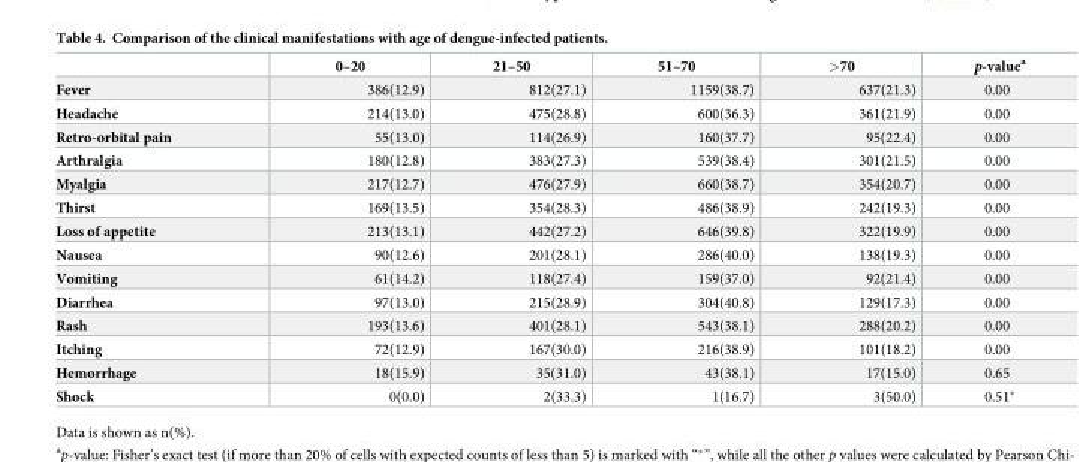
<table><thead><tr><td></td><td>0–20</td><td>21–50</td><td>51–70</td><td>&gt;70</td><td>p-value<sup>a</sup></td></tr></thead><tbody><tr><td>Fever</td><td>386(12.9)</td><td>812(27.1)</td><td>1159(38.7)</td><td>637(21.3)</td><td>0.00</td></tr><tr><td>Headache</td><td>214(13.0)</td><td>475(28.8)</td><td>600(36.3)</td><td>361(21.9)</td><td>0.00</td></tr><tr><td>Retro-orbital pain</td><td>55(13.0)</td><td>114(26.9)</td><td>160(37.7)</td><td>95(22.4)</td><td>0.00</td></tr><tr><td>Arthralgia</td><td>180(12.8)</td><td>383(27.3)</td><td>539(38.4)</td><td>301(21.5)</td><td>0.00</td></tr><tr><td>Myalgia</td><td>217(12.7)</td><td>476(27.9)</td><td>660(38.7)</td><td>354(20.7)</td><td>0.00</td></tr><tr><td>Thirst</td><td>169(13.5)</td><td>354(28.3)</td><td>486(38.9)</td><td>242(19.3)</td><td>0.00</td></tr><tr><td>Loss of appetite</td><td>213(13.1)</td><td>442(27.2)</td><td>646(39.8)</td><td>322(19.9)</td><td>0.00</td></tr><tr><td>Nausea</td><td>90(12.6)</td><td>201(28.1)</td><td>286(40.0)</td><td>138(19.3)</td><td>0.00</td></tr><tr><td>Vomiting</td><td>61(14.2)</td><td>118(27.4)</td><td>159(37.0)</td><td>92(21.4)</td><td>0.00</td></tr><tr><td>Diarrhea</td><td>97(13.0)</td><td>215(28.9)</td><td>304(40.8)</td><td>129(17.3)</td><td>0.00</td></tr><tr><td>Rash</td><td>193(13.6)</td><td>401(28.1)</td><td>543(38.1)</td><td>288(20.2)</td><td>0.00</td></tr><tr><td>Itching</td><td>72(12.9)</td><td>167(30.0)</td><td>216(38.9)</td><td>101(18.2)</td><td>0.00</td></tr><tr><td>Hemorrhage</td><td>18(15.9)</td><td>35(31.0)</td><td>43(38.1)</td><td>17(15.0)</td><td>0.65</td></tr><tr><td>Shock</td><td>0(0.0)</td><td>2(33.3)</td><td>1(16.7)</td><td>3(50.0)</td><td>0.51*</td></tr></tbody></table>